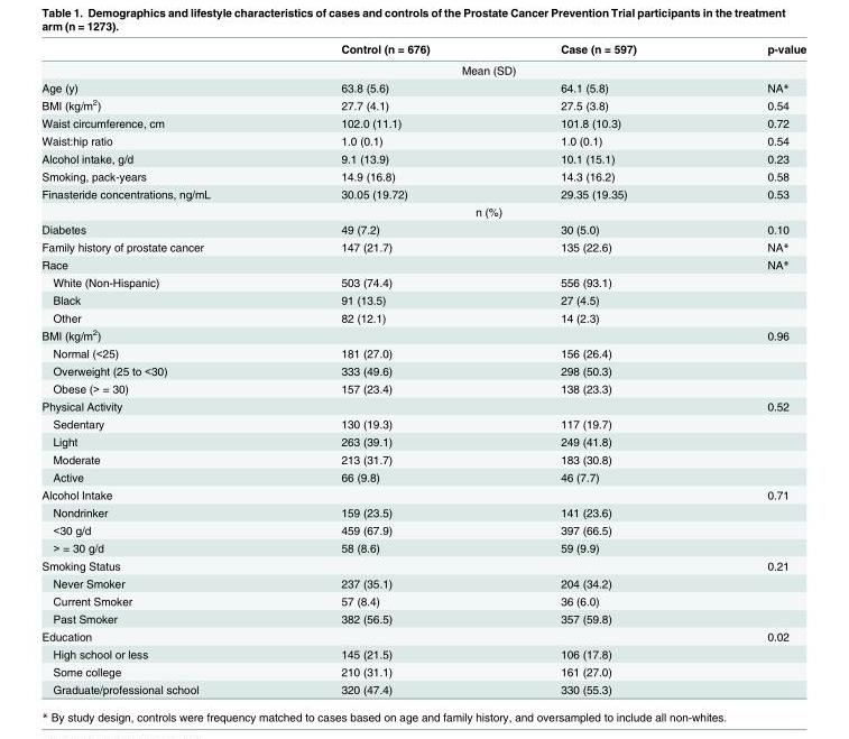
<table><thead><tr><td></td><td>Control (n = 676)</td><td>Case (n = 597)</td><td>p-value</td></tr></thead><tbody><tr><td></td><td colspan="2">Mean (SD)</td><td></td></tr><tr><td>Age (y)</td><td>63.8 (5.6)</td><td>64.1 (5.8)</td><td>NA*</td></tr><tr><td>BMI (kg/m<sup>2</sup>)</td><td>27.7 (4.1)</td><td>27.5 (3.8)</td><td>0.54</td></tr><tr><td>Waist circumference, cm</td><td>102.0 (11.1)</td><td>101.8 (10.3)</td><td>0.72</td></tr><tr><td>Waist:hip ratio</td><td>1.0 (0.1)</td><td>1.0 (0.1)</td><td>0.54</td></tr><tr><td>Alcohol intake, g/d</td><td>9.1 (13.9)</td><td>10.1 (15.1)</td><td>0.23</td></tr><tr><td>Smoking, pack-years</td><td>14.9 (16.8)</td><td>14.3 (16.2)</td><td>0.58</td></tr><tr><td rowspan="2">Finasteride concentrations, ng/mL</td><td>30.05 (19.72)</td><td>29.35 (19.35)</td><td>0.53</td></tr><tr><td colspan="2">n (%)</td><td></td></tr><tr><td>Diabetes</td><td>49 (7.2)</td><td>30 (5.0)</td><td>0.10</td></tr><tr><td>Family history of prostate cancer</td><td>147 (21.7)</td><td>135 (22.6)</td><td>NA*</td></tr><tr><td>Race</td><td></td><td></td><td>NA*</td></tr><tr><td>White (Non-Hispanic)</td><td>503 (74.4)</td><td>556 (93.1)</td><td></td></tr><tr><td>Black</td><td>91 (13.5)</td><td>27 (4.5)</td><td></td></tr><tr><td>Other</td><td>82 (12.1)</td><td>14 (2.3)</td><td></td></tr><tr><td>BMI (kg/m<sup>2</sup>)</td><td></td><td></td><td>0.96</td></tr><tr><td>Normal (&lt;25)</td><td>181 (27.0)</td><td>156 (26.4)</td><td></td></tr><tr><td>Overweight (25 to &lt;30)</td><td>333 (49.6)</td><td>298 (50.3)</td><td></td></tr><tr><td>Obese (&gt; = 30)</td><td>157 (23.4)</td><td>138 (23.3)</td><td></td></tr><tr><td>Physical Activity</td><td></td><td></td><td>0.52</td></tr><tr><td>Sedentary</td><td>130 (19.3)</td><td>117 (19.7)</td><td></td></tr><tr><td>Light</td><td>263 (39.1)</td><td>249 (41.8)</td><td></td></tr><tr><td>Moderate</td><td>213 (31.7)</td><td>183 (30.8)</td><td></td></tr><tr><td>Active</td><td>66 (9.8)</td><td>46 (7.7)</td><td></td></tr><tr><td>Alcohol Intake</td><td></td><td></td><td>0.71</td></tr><tr><td>Nondrinker</td><td>159 (23.5)</td><td>141 (23.6)</td><td></td></tr><tr><td>&lt;30 g/d</td><td>459 (67.9)</td><td>397 (66.5)</td><td></td></tr><tr><td>&gt; = 30 g/d</td><td>58 (8.6)</td><td>59 (9.9)</td><td></td></tr><tr><td>Smoking Status</td><td></td><td></td><td>0.21</td></tr><tr><td>Never Smoker</td><td>237 (35.1)</td><td>204 (34.2)</td><td></td></tr><tr><td>Current Smoker</td><td>57 (8.4)</td><td>36 (6.0)</td><td></td></tr><tr><td>Past Smoker</td><td>382 (56.5)</td><td>357 (59.8)</td><td></td></tr><tr><td>Education</td><td></td><td></td><td>0.02</td></tr><tr><td>High school or less</td><td>145 (21.5)</td><td>106 (17.8)</td><td></td></tr><tr><td>Some college</td><td>210 (31.1)</td><td>161 (27.0)</td><td></td></tr><tr><td>Graduate/professional school</td><td>320 (47.4)</td><td>330 (55.3)</td><td></td></tr></tbody></table>